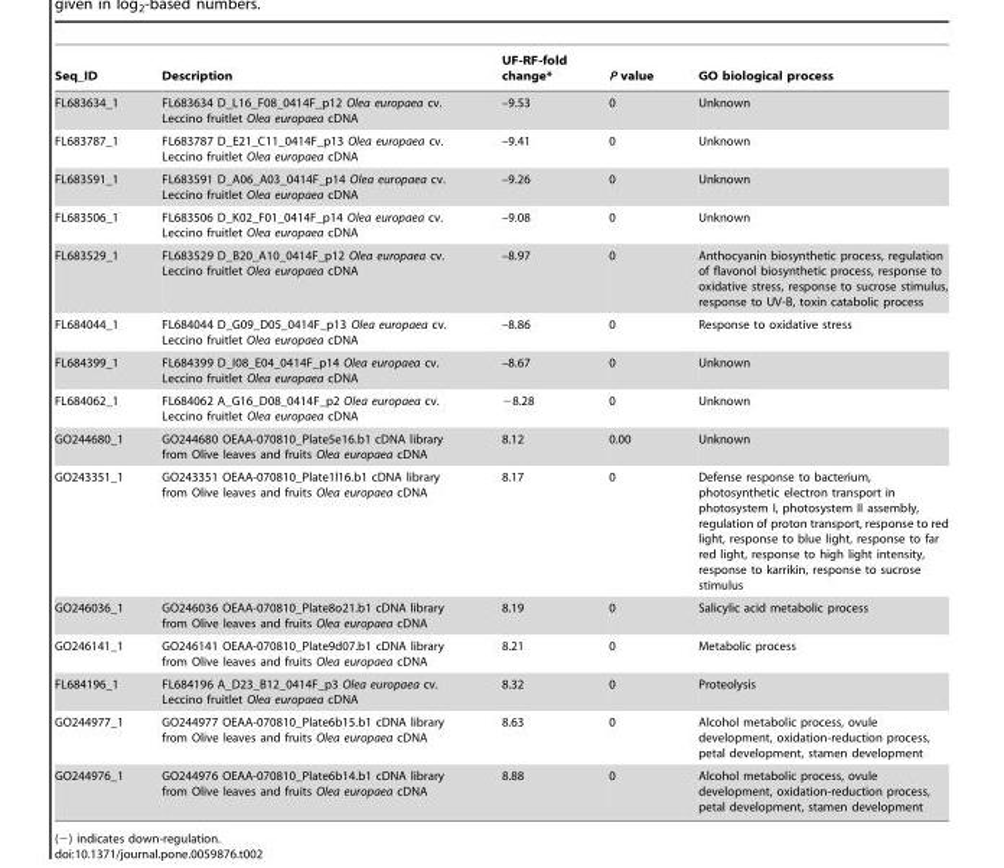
<table><thead><tr><td>Seq_ID</td><td>Description</td><td>UF-RF-fold change*</td><td>P value</td><td>GO biological process</td></tr></thead><tbody><tr><td>FL683634_1</td><td>FL683634 D_L16_F08_0414F_p12 Olea europaea cv. Leccino fruitlet Olea europaea cDNA</td><td>–9.53</td><td>0</td><td>Unknown</td></tr><tr><td>FL683787_1</td><td>FL683787 D_E21_C11_0414F_p13 Olea europaea cv. Leccino fruitlet Olea europaea cDNA</td><td>–9.41</td><td>0</td><td>Unknown</td></tr><tr><td>FL683591_1</td><td>FL683591 D_A06_A03_0414F_p14 Olea europaea cv. Leccino fruitlet Olea europaea cDNA</td><td>–9.26</td><td>0</td><td>Unknown</td></tr><tr><td>FL683506_1</td><td>FL683506 D_K02_F01_0414F_p14 Olea europaea cv. Leccino fruitlet Olea europaea cDNA</td><td>–9.08</td><td>0</td><td>Unknown</td></tr><tr><td>FL683529_1</td><td>FL683529 D_B20_A10_0414F_p12 Olea europaea cv. Leccino fruitlet Olea europaea cDNA</td><td>–8.97</td><td>0</td><td>Anthocyanin biosynthetic process, regulation of flavonol biosynthetic process, response to oxidative stress, response to sucrose stimulus, response to UV-B, toxin catabolic process</td></tr><tr><td>FL684044_1</td><td>FL684044 D_G09_D05_0414F_p13 Olea europaea cv. Leccino fruitlet Olea europaea cDNA</td><td>–8.86</td><td>0</td><td>Response to oxidative stress</td></tr><tr><td>FL684399_1</td><td>FL684399 D_I08_E04_0414F_p14 Olea europaea cv. Leccino fruitlet Olea europaea cDNA</td><td>–8.67</td><td>0</td><td>Unknown</td></tr><tr><td>FL684062_1</td><td>FL684062 A_G16_D08_0414F_p2 Olea europaea cv. Leccino fruitlet Olea europaea cDNA</td><td>−8.28</td><td>0</td><td>Unknown</td></tr><tr><td>GO244680_1</td><td>GO244680 OEAA-070810_Plate5e16.b1 cDNA library from Olive leaves and fruits Olea europaea cDNA</td><td>8.12</td><td>0.00</td><td>Unknown</td></tr><tr><td>GO243351_1</td><td>GO243351 OEAA-070810_Plate1l16.b1 cDNA library from Olive leaves and fruits Olea europaea cDNA</td><td>8.17</td><td>0</td><td>Defense response to bacterium, photosynthetic electron transport in photosystem I, photosystem II assembly, regulation of proton transport, response to red light, response to blue light, response to far red light, response to high light intensity, response to karrikin, response to sucrose stimulus</td></tr><tr><td>GO246036_1</td><td>GO246036 OEAA-070810_Plate8o21.b1 cDNA library from Olive leaves and fruits Olea europaea cDNA</td><td>8.19</td><td>0</td><td>Salicylic acid metabolic process</td></tr><tr><td>GO246141_1</td><td>GO246141 OEAA-070810_Plate9d07.b1 cDNA library from Olive leaves and fruits Olea europaea cDNA</td><td>8.21</td><td>0</td><td>Metabolic process</td></tr><tr><td>FL684196_1</td><td>FL684196 A_D23_B12_0414F_p3 Olea europaea cv. Leccino fruitlet Olea europaea cDNA</td><td>8.32</td><td>0</td><td>Proteolysis</td></tr><tr><td>GO244977_1</td><td>GO244977 OEAA-070810_Plate6b15.b1 cDNA library from Olive leaves and fruits Olea europaea cDNA</td><td>8.63</td><td>0</td><td>Alcohol metabolic process, ovule development, oxidation-reduction process, petal development, stamen development</td></tr><tr><td>GO244976_1</td><td>GO244976 OEAA-070810_Plate6b14.b1 cDNA library from Olive leaves and fruits Olea europaea cDNA</td><td>8.88</td><td>0</td><td>Alcohol metabolic process, ovule development, oxidation-reduction process, petal development, stamen development</td></tr></tbody></table>